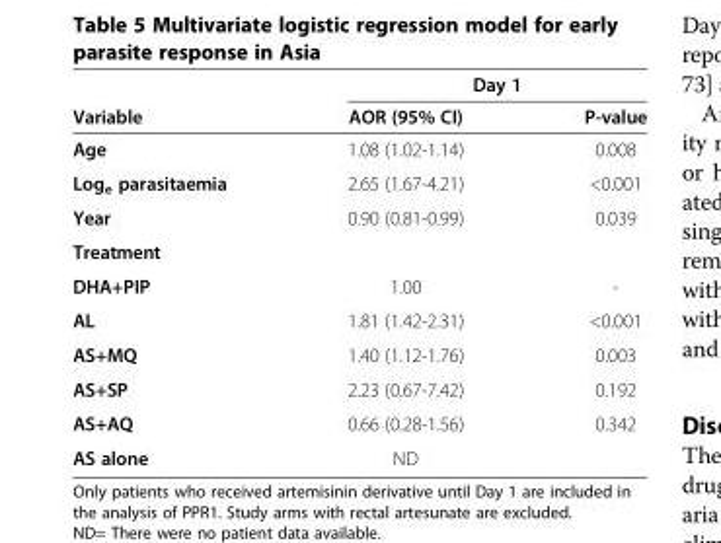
<table><thead><tr><td rowspan="2">Variable</td><td colspan="2">Day 1</td></tr><tr><td>AOR (95% CI)</td><td>P-value</td></tr></thead><tbody><tr><td>Age</td><td>1.08 (1.02-1.14)</td><td>0.008</td></tr><tr><td>Log<sub>e</sub> parasitaemia</td><td>2.65 (1.67-4.21)</td><td>&lt;0.001</td></tr><tr><td>Year</td><td>0.90 (0.81-0.99)</td><td>0.039</td></tr><tr><td colspan="3">Treatment</td></tr><tr><td>DHA+PIP</td><td>1.00</td><td>-</td></tr><tr><td>AL</td><td>1.81 (1.42-2.31)</td><td>&lt;0.001</td></tr><tr><td>AS+MQ</td><td>1.40 (1.12-1.76)</td><td>0.003</td></tr><tr><td>AS+SP</td><td>2.23 (0.67-7.42)</td><td>0.192</td></tr><tr><td>AS+AQ</td><td>0.66 (0.28-1.56)</td><td>0.342</td></tr><tr><td>AS alone</td><td>ND</td><td></td></tr></tbody></table>